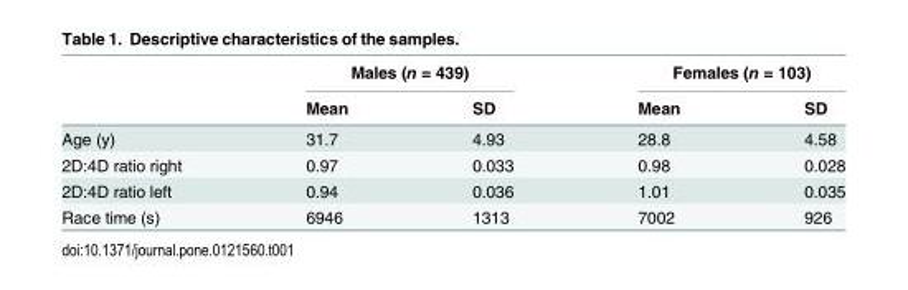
<table><thead><tr><td rowspan="2"></td><td colspan="2">Males (n = 439)</td><td colspan="2">Females (n = 103)</td></tr><tr><td>Mean</td><td>SD</td><td>Mean</td><td>SD</td></tr></thead><tbody><tr><td>Age (y)</td><td>31.7</td><td>4.93</td><td>28.8</td><td>4.58</td></tr><tr><td>2D:4D ratio right</td><td>0.97</td><td>0.033</td><td>0.98</td><td>0.028</td></tr><tr><td>2D:4D ratio left</td><td>0.94</td><td>0.036</td><td>1.01</td><td>0.035</td></tr><tr><td>Race time (s)</td><td>6946</td><td>1313</td><td>7002</td><td>926</td></tr></tbody></table>